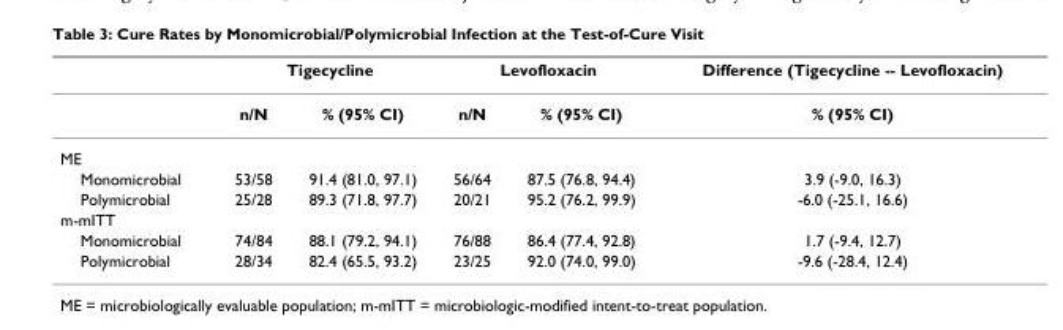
<table><thead><tr><td rowspan="2"></td><td colspan="2">Tigecycline</td><td colspan="2">Levofloxacin</td><td rowspan="2">Difference (Tigecycline -- Levofloxacin) % (95% CI)</td></tr><tr><td>n/N</td><td>% (95% CI)</td><td>n/N</td><td>% (95% CI)</td></tr></thead><tbody><tr><td colspan="6">ME</td></tr><tr><td>Monomicrobial</td><td>53/58</td><td>91.4 (81.0, 97.1)</td><td>56/64</td><td>87.5 (76.8, 94.4)</td><td>3.9 (-9.0, 16.3)</td></tr><tr><td>Polymicrobial</td><td>25/28</td><td>89.3 (71.8, 97.7)</td><td>20/21</td><td>95.2 (76.2, 99.9)</td><td>-6.0 (-25.1, 16.6)</td></tr><tr><td colspan="6">m-mITT</td></tr><tr><td>Monomicrobial</td><td>74/84</td><td>88.1 (79.2, 94.1)</td><td>76/88</td><td>86.4 (77.4, 92.8)</td><td>1.7 (-9.4, 12.7)</td></tr><tr><td>Polymicrobial</td><td>28/34</td><td>82.4 (65.5, 93.2)</td><td>23/25</td><td>92.0 (74.0, 99.0)</td><td>-9.6 (-28.4, 12.4)</td></tr></tbody></table>